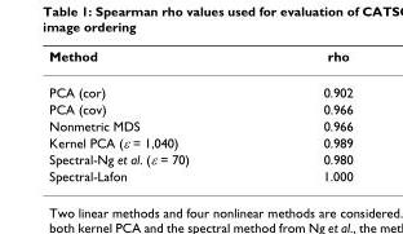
<table><thead><tr><td>Method</td><td>rho</td></tr></thead><tbody><tr><td>PCA (cor)</td><td>0.902</td></tr><tr><td>PCA (cov)</td><td>0.966</td></tr><tr><td>Nonmetric MDS</td><td>0.966</td></tr><tr><td>Kernel PCA (ε = 1,040)</td><td>0.989</td></tr><tr><td>Spectral-Ng et al. (ε = 70)</td><td>0.980</td></tr><tr><td>Spectral-Lafon</td><td>1.000</td></tr></tbody></table>